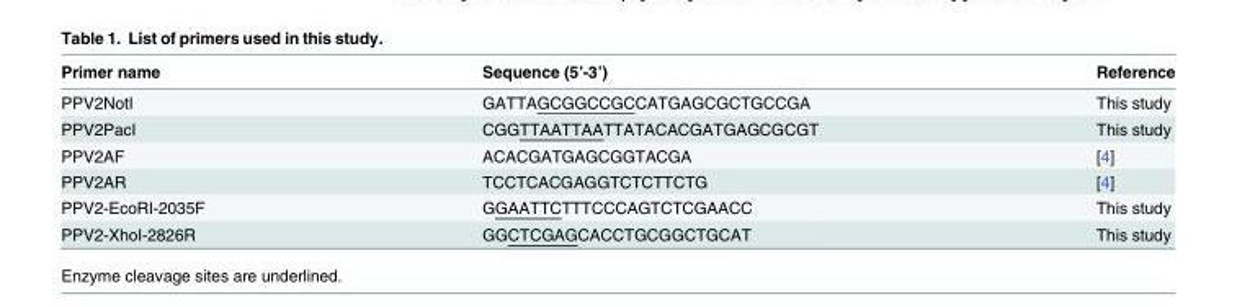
<table><thead><tr><td>Primer name</td><td>Sequence (5’-3’)</td><td>Reference</td></tr></thead><tbody><tr><td>PPV2NotI</td><td>GATTAGCGGCCGCCATGAGCGCTGCCGA</td><td>This study</td></tr><tr><td>PPV2PacI</td><td>CGGTTAATTAATTATACACGATGAGCGCGT</td><td>This study</td></tr><tr><td>PPV2AF</td><td>ACACGATGAGCGGTACGA</td><td>[4]</td></tr><tr><td>PPV2AR</td><td>TCCTCACGAGGTCTCTTCTG</td><td>[4]</td></tr><tr><td>PPV2-EcoRI-2035F</td><td>GGAATTCTTTCCCAGTCTCGAACC</td><td>This study</td></tr><tr><td>PPV2-XhoI-2826R</td><td>GGCTCGAGCACCTGCGGCTGCAT</td><td>This study</td></tr></tbody></table>